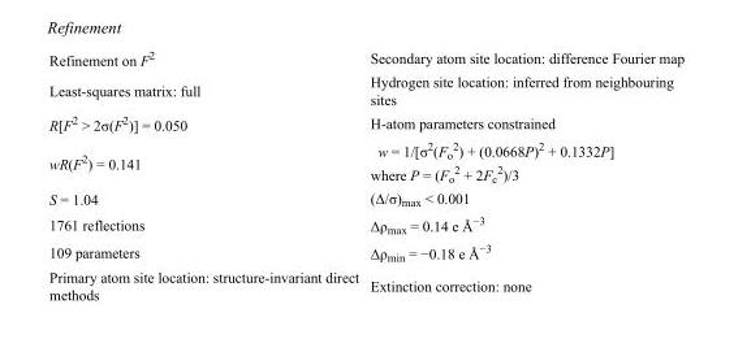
<table><tbody><tr><td>Refinement on F<sup>2</sup></td><td>Secondary atom site location: difference Fourier map</td></tr><tr><td>Least-squares matrix: full</td><td>Hydrogen site location: inferred from neighbouring sites</td></tr><tr><td>R[F<sup>2</sup> &gt; 2σ(F<sup>2</sup>)] = 0.050</td><td>H-atom parameters constrained</td></tr><tr><td>wR(F<sup>2</sup>) = 0.141</td><td>w = 1/[σ<sup>2</sup>(F<sub>o</sub> <sup>2</sup>) + (0.0668P)<sup>2</sup> + 0.1332P] where P = (F<sub>o</sub> <sup>2</sup> + 2F<sub>c</sub> <sup>2</sup>)/3</td></tr><tr><td>S = 1.04</td><td>(Δ/σ)<sub>max</sub> &lt; 0.001</td></tr><tr><td>1761 reflections</td><td>Δρ<sub>max</sub> = 0.14 e Å<sup>−3</sup></td></tr><tr><td>109 parameters</td><td>Δρ<sub>min</sub> = −0.18 e Å<sup>−3</sup></td></tr><tr><td>Primary atom site location: structure-invariant direct methods</td><td>Extinction correction: none</td></tr></tbody></table>